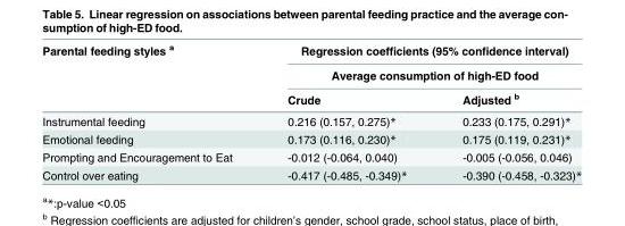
<table><thead><tr><td rowspan="3">Parental feeding styles <sup>a</sup></td><td rowspan="2" colspan="2">Regression coefficients (95% confidence interval) Average consumption of high-ED food</td></tr><tr></tr><tr><td>Crude</td><td>Adjusted <sup>b</sup></td></tr></thead><tbody><tr><td>Instrumental feeding</td><td>0.216 (0.157, 0.275)*</td><td>0.233 (0.175, 0.291)*</td></tr><tr><td>Emotional feeding</td><td>0.173 (0.116, 0.230)*</td><td>0.175 (0.119, 0.231)*</td></tr><tr><td>Prompting and Encouragement to Eat</td><td>-0.012 (-0.064, 0.040)</td><td>-0.005 (-0.056, 0.046)</td></tr><tr><td>Control over eating</td><td>-0.417 (-0.485, -0.349)*</td><td>-0.390 (-0.458, -0.323)*</td></tr></tbody></table>